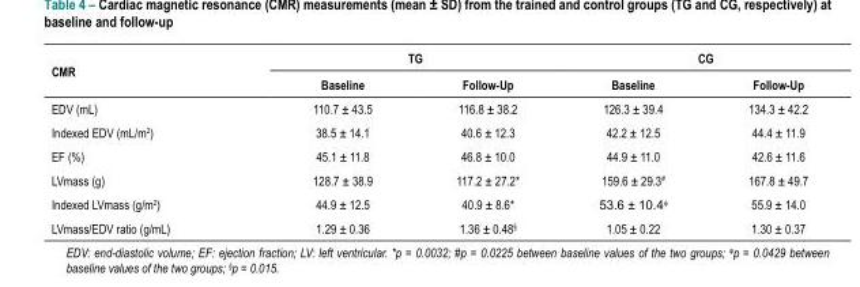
<table><thead><tr><td rowspan="2">CMR</td><td colspan="2">TG</td><td colspan="2">CG</td></tr><tr><td>Baseline</td><td>Follow-Up</td><td>Baseline</td><td>Follow-Up</td></tr></thead><tbody><tr><td>EDV (mL)</td><td>110.7 ± 43.5</td><td>116.8 ± 38.2</td><td>126.3 ± 39.4</td><td>134.3 ± 42.2</td></tr><tr><td>Indexed EDV (mL/m<sup>2</sup>)</td><td>38.5 ± 14.1</td><td>40.6 ± 12.3</td><td>42.2 ± 12.5</td><td>44.4 ± 11.9</td></tr><tr><td>EF (%)</td><td>45.1 ± 11.8</td><td>46.8 ± 10.0</td><td>44.9 ± 11.0</td><td>42.6 ± 11.6</td></tr><tr><td>LVmass (g)</td><td>128.7 ± 38.9</td><td>117.2 ± 27.2*</td><td>159.6 ± 29.3#</td><td>167.8 ± 49.7</td></tr><tr><td>Indexed LVmass (g/m<sup>2</sup>)</td><td>44.9 ± 12.5</td><td>40.9 ± 8.6*</td><td>53.6 ± 10.4φ</td><td>55.9 ± 14.0</td></tr><tr><td>LVmass/EDV ratio (g/mL)</td><td>1.29 ± 0.36</td><td>1.36 ± 0.48§</td><td>1.05 ± 0.22</td><td>1.30 ± 0.37</td></tr></tbody></table>